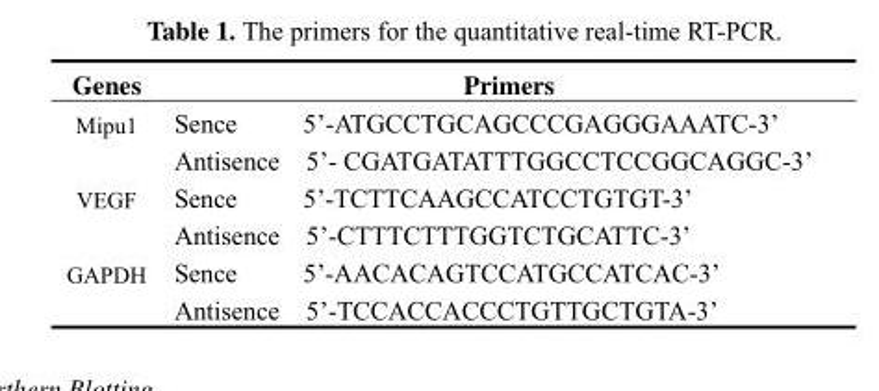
<table><thead><tr><td>Genes</td><td></td><td>Primers</td></tr></thead><tbody><tr><td rowspan="2">Mipu1</td><td>Sence</td><td>5’-ATGCCTGCAGCCCGAGGGAAATC-3’</td></tr><tr><td>Antisence</td><td>5’- CGATGATATTTGGCCTCCGGCAGGC-3’</td></tr><tr><td rowspan="2">VEGF</td><td>Sence</td><td>5’-TCTTCAAGCCATCCTGTGT-3’</td></tr><tr><td>Antisence</td><td>5’-CTTTCTTTGGTCTGCATTC-3’</td></tr><tr><td rowspan="2">GAPDH</td><td>Sence</td><td>5’-AACACAGTCCATGCCATCAC-3’</td></tr><tr><td>Antisence</td><td>5’-TCCACCACCCTGTTGCTGTA-3’</td></tr></tbody></table>